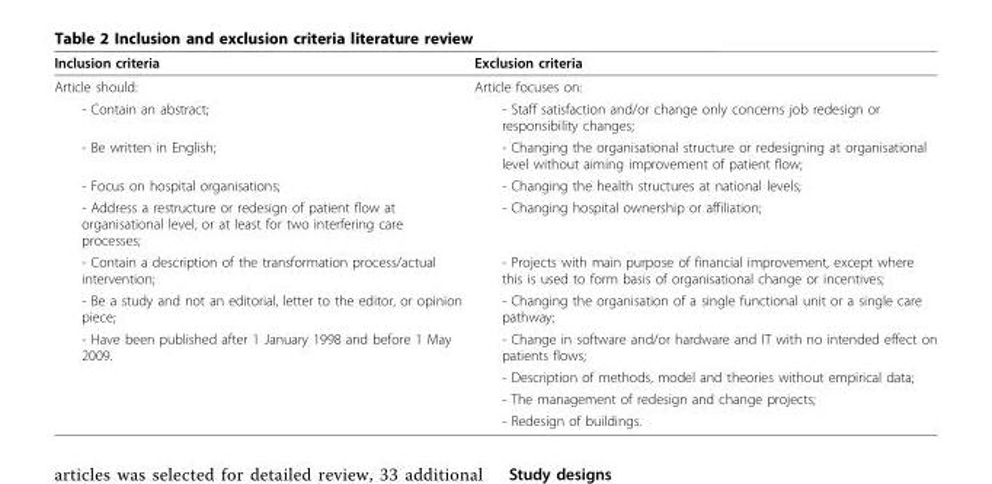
<table><thead><tr><td>Inclusion criteria</td><td>Exclusion criteria</td></tr></thead><tbody><tr><td>Article should:</td><td>Article focuses on:</td></tr><tr><td>- Contain an abstract;</td><td>- Staff satisfaction and/or change only concerns job redesign or responsibility changes;</td></tr><tr><td>- Be written in English;</td><td>- Changing the organisational structure or redesigning at organisational level without aiming improvement of patient flow;</td></tr><tr><td>- Focus on hospital organisations;</td><td>- Changing the health structures at national levels;</td></tr><tr><td>- Address a restructure or redesign of patient flow at organisational level, or at least for two interfering care processes;</td><td>- Changing hospital ownership or affiliation;</td></tr><tr><td>- Contain a description of the transformation process/actual intervention;</td><td>- Projects with main purpose of financial improvement, except where this is used to form basis of organisational change or incentives;</td></tr><tr><td>- Be a study and not an editorial, letter to the editor, or opinion piece;</td><td>- Changing the organisation of a single functional unit or a single care pathway;</td></tr><tr><td rowspan="4">- Have been published after 1 January 1998 and before 1 May 2009.</td><td>- Change in software and/or hardware and IT with no intended effect on patients flows;</td></tr><tr><td>- Description of methods, model and theories without empirical data;</td></tr><tr><td>- The management of redesign and change projects;</td></tr><tr><td>- Redesign of buildings.</td></tr></tbody></table>